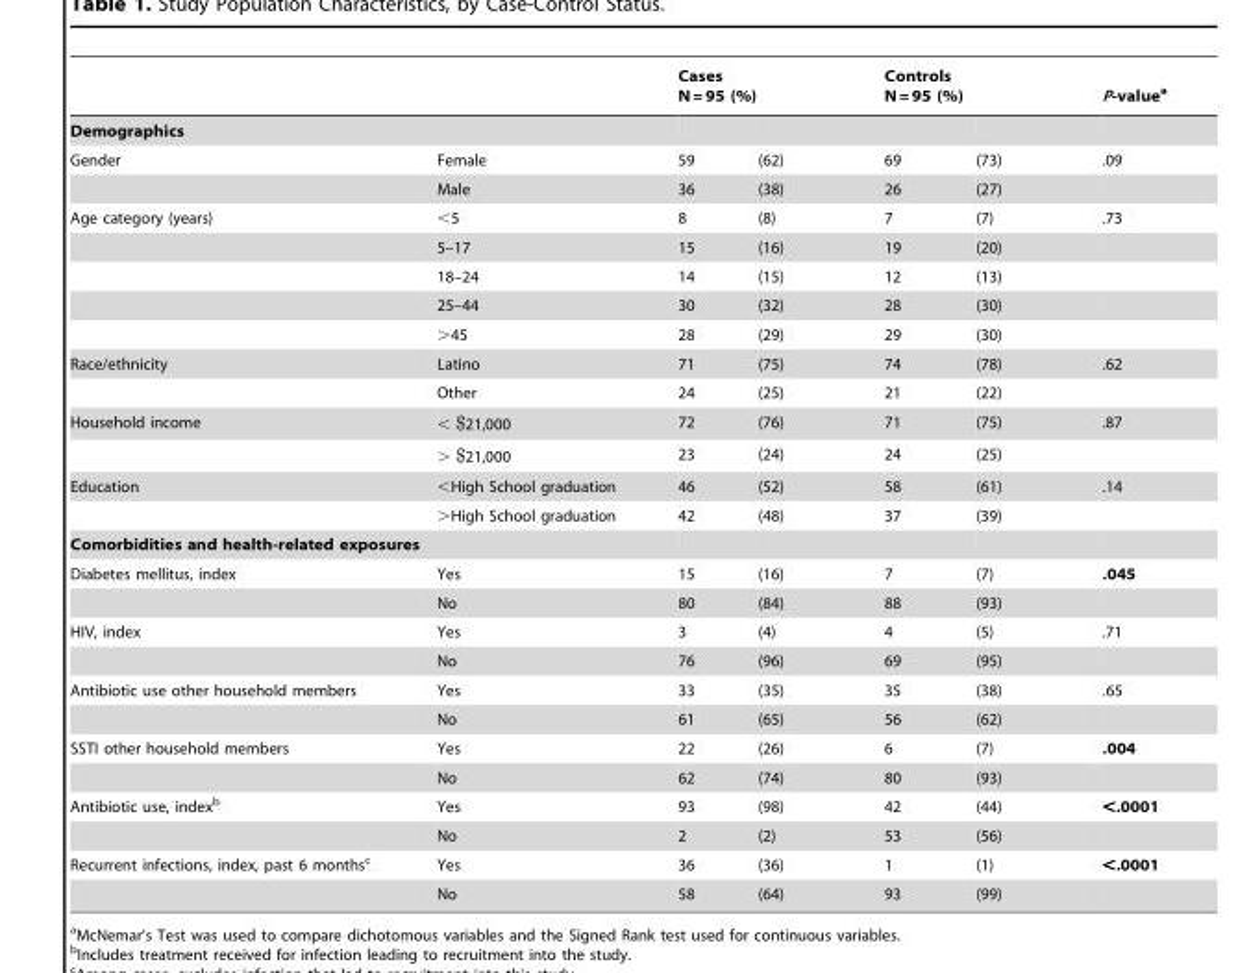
<table><thead><tr><td></td><td></td><td colspan="2">Cases N = 95 (%)</td><td colspan="2">Controls N = 95 (%)</td><td rowspan="2">P-value<sup>a</sup></td></tr><tr><td colspan="2">Demographics</td><td></td><td></td><td></td><td></td></tr></thead><tbody><tr><td rowspan="2">Gender</td><td>Female</td><td>59</td><td>(62)</td><td>69</td><td>(73)</td><td>.09</td></tr><tr><td>Male</td><td>36</td><td>(38)</td><td>26</td><td>(27)</td><td></td></tr><tr><td rowspan="5">Age category (years)</td><td>&lt;5</td><td>8</td><td>(8)</td><td>7</td><td>(7)</td><td>.73</td></tr><tr><td>5–17</td><td>15</td><td>(16)</td><td>19</td><td>(20)</td><td></td></tr><tr><td>18–24</td><td>14</td><td>(15)</td><td>12</td><td>(13)</td><td></td></tr><tr><td>25–44</td><td>30</td><td>(32)</td><td>28</td><td>(30)</td><td></td></tr><tr><td>&gt;45</td><td>28</td><td>(29)</td><td>29</td><td>(30)</td><td></td></tr><tr><td rowspan="2">Race/ethnicity</td><td>Latino</td><td>71</td><td>(75)</td><td>74</td><td>(78)</td><td>.62</td></tr><tr><td>Other</td><td>24</td><td>(25)</td><td>21</td><td>(22)</td><td></td></tr><tr><td rowspan="2">Household income</td><td>&lt; $21,000</td><td>72</td><td>(76)</td><td>71</td><td>(75)</td><td>.87</td></tr><tr><td>&gt; $21,000</td><td>23</td><td>(24)</td><td>24</td><td>(25)</td><td></td></tr><tr><td rowspan="2">Education</td><td>&lt;High School graduation</td><td>46</td><td>(52)</td><td>58</td><td>(61)</td><td>.14</td></tr><tr><td>&gt;High School graduation</td><td>42</td><td>(48)</td><td>37</td><td>(39)</td><td></td></tr><tr><td colspan="7">Comorbidities and health-related exposures</td></tr><tr><td rowspan="2">Diabetes mellitus, index</td><td>Yes</td><td>15</td><td>(16)</td><td>7</td><td>(7)</td><td>.045</td></tr><tr><td>No</td><td>80</td><td>(84)</td><td>88</td><td>(93)</td><td></td></tr><tr><td rowspan="2">HIV, index</td><td>Yes</td><td>3</td><td>(4)</td><td>4</td><td>(5)</td><td>.71</td></tr><tr><td>No</td><td>76</td><td>(96)</td><td>69</td><td>(95)</td><td></td></tr><tr><td rowspan="2">Antibiotic use other household members</td><td>Yes</td><td>33</td><td>(35)</td><td>35</td><td>(38)</td><td>.65</td></tr><tr><td>No</td><td>61</td><td>(65)</td><td>56</td><td>(62)</td><td></td></tr><tr><td rowspan="2">SSTI other household members</td><td>Yes</td><td>22</td><td>(26)</td><td>6</td><td>(7)</td><td>.004</td></tr><tr><td>No</td><td>62</td><td>(74)</td><td>80</td><td>(93)</td><td></td></tr><tr><td rowspan="2">Antibiotic use, index<sup>b</sup></td><td>Yes</td><td>93</td><td>(98)</td><td>42</td><td>(44)</td><td>&lt;.0001</td></tr><tr><td>No</td><td>2</td><td>(2)</td><td>53</td><td>(56)</td><td></td></tr><tr><td rowspan="2">Recurrent infections, index, past 6 months<sup>c</sup></td><td>Yes</td><td>36</td><td>(36)</td><td>1</td><td>(1)</td><td>&lt;.0001</td></tr><tr><td>No</td><td>58</td><td>(64)</td><td>93</td><td>(99)</td><td></td></tr></tbody></table>